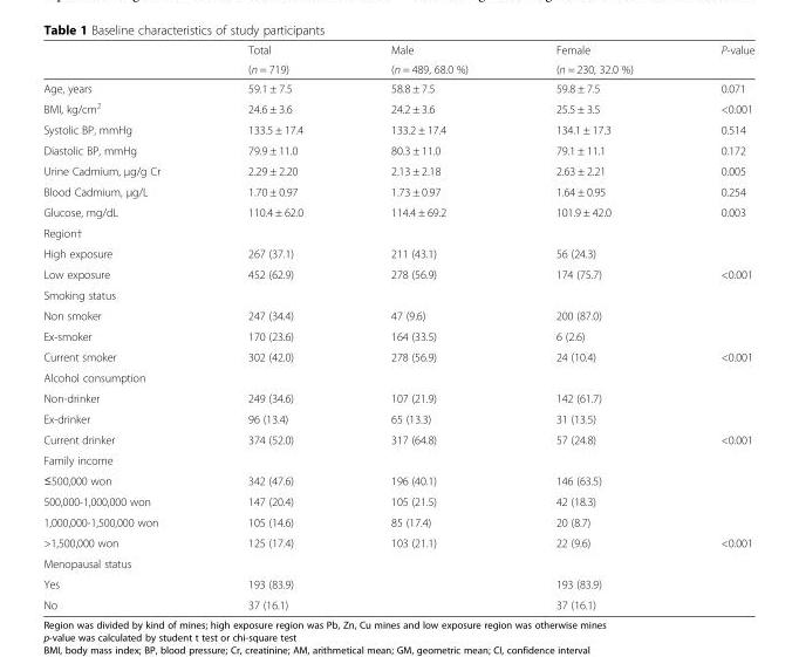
<table><thead><tr><td rowspan="2"></td><td rowspan="2">Total (n = 719)</td><td rowspan="2">Male (n = 489, 68.0 %)</td><td rowspan="2">Female (n = 230, 32.0 %)</td><td rowspan="2">P-value</td></tr><tr></tr></thead><tbody><tr><td>Age, years</td><td>59.1 ± 7.5</td><td>58.8 ± 7.5</td><td>59.8 ± 7.5</td><td>0.071</td></tr><tr><td>BMI, kg/cm<sup>2</sup></td><td>24.6 ± 3.6</td><td>24.2 ± 3.6</td><td>25.5 ± 3.5</td><td>&lt;0.001</td></tr><tr><td>Systolic BP, mmHg</td><td>133.5 ± 17.4</td><td>133.2 ± 17.4</td><td>134.1 ± 17.3</td><td>0.514</td></tr><tr><td>Diastolic BP, mmHg</td><td>79.9 ± 11.0</td><td>80.3 ± 11.0</td><td>79.1 ± 11.1</td><td>0.172</td></tr><tr><td>Urine Cadmium, μg/g Cr</td><td>2.29 ± 2.20</td><td>2.13 ± 2.18</td><td>2.63 ± 2.21</td><td>0.005</td></tr><tr><td>Blood Cadmium, μg/L</td><td>1.70 ± 0.97</td><td>1.73 ± 0.97</td><td>1.64 ± 0.95</td><td>0.254</td></tr><tr><td>Glucose, mg/dL</td><td>110.4 ± 62.0</td><td>114.4 ± 69.2</td><td>101.9 ± 42.0</td><td>0.003</td></tr><tr><td colspan="5">Region†</td></tr><tr><td>High exposure</td><td>267 (37.1)</td><td>211 (43.1)</td><td>56 (24.3)</td><td></td></tr><tr><td>Low exposure</td><td>452 (62.9)</td><td>278 (56.9)</td><td>174 (75.7)</td><td>&lt;0.001</td></tr><tr><td colspan="5">Smoking status</td></tr><tr><td>Non smoker</td><td>247 (34.4)</td><td>47 (9.6)</td><td>200 (87.0)</td><td></td></tr><tr><td>Ex-smoker</td><td>170 (23.6)</td><td>164 (33.5)</td><td>6 (2.6)</td><td></td></tr><tr><td>Current smoker</td><td>302 (42.0)</td><td>278 (56.9)</td><td>24 (10.4)</td><td>&lt;0.001</td></tr><tr><td colspan="5">Alcohol consumption</td></tr><tr><td>Non-drinker</td><td>249 (34.6)</td><td>107 (21.9)</td><td>142 (61.7)</td><td></td></tr><tr><td>Ex-drinker</td><td>96 (13.4)</td><td>65 (13.3)</td><td>31 (13.5)</td><td></td></tr><tr><td>Current drinker</td><td>374 (52.0)</td><td>317 (64.8)</td><td>57 (24.8)</td><td>&lt;0.001</td></tr><tr><td colspan="5">Family income</td></tr><tr><td>≤500,000 won</td><td>342 (47.6)</td><td>196 (40.1)</td><td>146 (63.5)</td><td></td></tr><tr><td>500,000-1,000,000 won</td><td>147 (20.4)</td><td>105 (21.5)</td><td>42 (18.3)</td><td></td></tr><tr><td>1,000,000-1,500,000 won</td><td>105 (14.6)</td><td>85 (17.4)</td><td>20 (8.7)</td><td></td></tr><tr><td>&gt;1,500,000 won</td><td>125 (17.4)</td><td>103 (21.1)</td><td>22 (9.6)</td><td>&lt;0.001</td></tr><tr><td colspan="5">Menopausal status</td></tr><tr><td>Yes</td><td>193 (83.9)</td><td></td><td>193 (83.9)</td><td></td></tr><tr><td>No</td><td>37 (16.1)</td><td></td><td>37 (16.1)</td><td></td></tr></tbody></table>